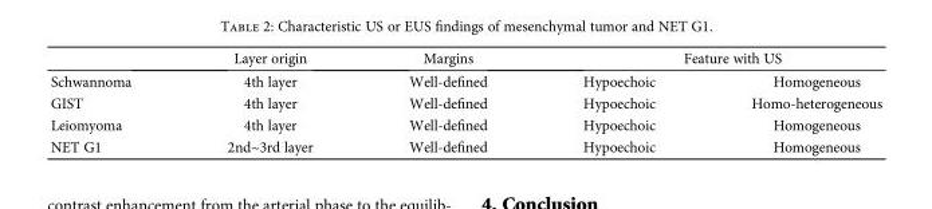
<table><thead><tr><td rowspan="2">Schwannoma</td><td rowspan="2">Layer origin 4th layer</td><td rowspan="2">Margins Well-defined</td><td colspan="2">Feature with US</td></tr><tr><td>Hypoechoic</td><td>Homogeneous</td></tr></thead><tbody><tr><td>GIST</td><td>4th layer</td><td>Well-defined</td><td>Hypoechoic</td><td>Homo-heterogeneous</td></tr><tr><td>Leiomyoma</td><td>4th layer</td><td>Well-defined</td><td>Hypoechoic</td><td>Homogeneous</td></tr><tr><td>NET G1</td><td>2nd~3rd layer</td><td>Well-defined</td><td>Hypoechoic</td><td>Homogeneous</td></tr></tbody></table>